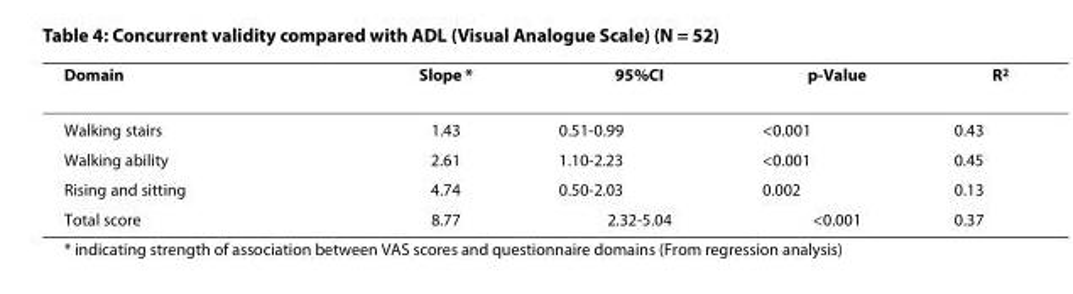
<table><thead><tr><td>Domain</td><td>Slope *</td><td>95%CI</td><td>p-Value</td><td>R<sup>2</sup></td></tr></thead><tbody><tr><td>Walking stairs</td><td>1.43</td><td>0.51-0.99</td><td>&lt;0.001</td><td>0.43</td></tr><tr><td>Walking ability</td><td>2.61</td><td>1.10-2.23</td><td>&lt;0.001</td><td>0.45</td></tr><tr><td>Rising and sitting</td><td>4.74</td><td>0.50-2.03</td><td>0.002</td><td>0.13</td></tr><tr><td>Total score</td><td>8.77</td><td>2.32-5.04</td><td>&lt;0.001</td><td>0.37</td></tr></tbody></table>